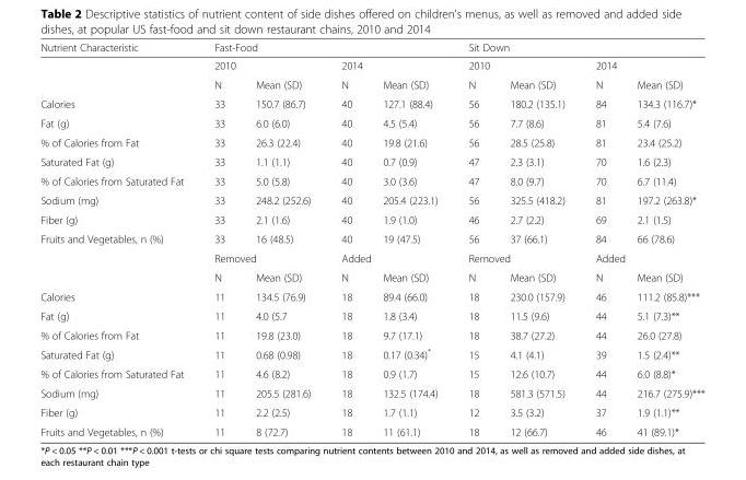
<table><thead><tr><td rowspan="3">Nutrient Characteristic</td><td colspan="4">Fast-Food</td><td colspan="4">Sit Down</td></tr><tr><td colspan="2">2010</td><td colspan="2">2014</td><td colspan="2">2010</td><td colspan="2">2014</td></tr><tr><td>N</td><td>Mean (SD)</td><td>N</td><td>Mean (SD)</td><td>N</td><td>Mean (SD)</td><td>N</td><td>Mean (SD)</td></tr></thead><tbody><tr><td>Calories</td><td>33</td><td>150.7 (86.7)</td><td>40</td><td>127.1 (88.4)</td><td>56</td><td>180.2 (135.1)</td><td>84</td><td>134.3 (116.7)*</td></tr><tr><td>Fat (g)</td><td>33</td><td>6.0 (6.0)</td><td>40</td><td>4.5 (5.4)</td><td>56</td><td>7.7 (8.6)</td><td>81</td><td>5.4 (7.6)</td></tr><tr><td>% of Calories from Fat</td><td>33</td><td>26.3 (22.4)</td><td>40</td><td>19.8 (21.6)</td><td>56</td><td>28.5 (25.8)</td><td>81</td><td>23.4 (25.2)</td></tr><tr><td>Saturated Fat (g)</td><td>33</td><td>1.1 (1.1)</td><td>40</td><td>0.7 (0.9)</td><td>47</td><td>2.3 (3.1)</td><td>70</td><td>1.6 (2.3)</td></tr><tr><td>% of Calories from Saturated Fat</td><td>33</td><td>5.0 (5.8)</td><td>40</td><td>3.0 (3.6)</td><td>47</td><td>8.0 (9.7)</td><td>70</td><td>6.7 (11.4)</td></tr><tr><td>Sodium (mg)</td><td>33</td><td>248.2 (252.6)</td><td>40</td><td>205.4 (223.1)</td><td>56</td><td>325.5 (418.2)</td><td>81</td><td>197.2 (263.8)*</td></tr><tr><td>Fiber (g)</td><td>33</td><td>2.1 (1.6)</td><td>40</td><td>1.9 (1.0)</td><td>46</td><td>2.7 (2.2)</td><td>69</td><td>2.1 (1.5)</td></tr><tr><td rowspan="3">Fruits and Vegetables, n (%)</td><td>33</td><td>16 (48.5)</td><td>40</td><td>19 (47.5)</td><td>56</td><td>37 (66.1)</td><td>84</td><td>66 (78.6)</td></tr><tr><td colspan="2">Removed</td><td colspan="2">Added</td><td colspan="2">Removed</td><td colspan="2">Added</td></tr><tr><td>N</td><td>Mean (SD)</td><td>N</td><td>Mean (SD)</td><td>N</td><td>Mean (SD)</td><td>N</td><td>Mean (SD)</td></tr><tr><td>Calories</td><td>11</td><td>134.5 (76.9)</td><td>18</td><td>89.4 (66.0)</td><td>18</td><td>230.0 (157.9)</td><td>46</td><td>111.2 (85.8)***</td></tr><tr><td>Fat (g)</td><td>11</td><td>4.0 (5.7</td><td>18</td><td>1.8 (3.4)</td><td>18</td><td>11.5 (9.6)</td><td>44</td><td>5.1 (7.3)**</td></tr><tr><td>% of Calories from Fat</td><td>11</td><td>19.8 (23.0)</td><td>18</td><td>9.7 (17.1)</td><td>18</td><td>38.7 (27.2)</td><td>44</td><td>26.0 (27.8)</td></tr><tr><td>Saturated Fat (g)</td><td>11</td><td>0.68 (0.98)</td><td>18</td><td>0.17 (0.34)*</td><td>15</td><td>4.1 (4.1)</td><td>39</td><td>1.5 (2.4)**</td></tr><tr><td>% of Calories from Saturated Fat</td><td>11</td><td>4.6 (8.2)</td><td>18</td><td>0.9 (1.7)</td><td>15</td><td>12.6 (10.7)</td><td>44</td><td>6.0 (8.8)*</td></tr><tr><td>Sodium (mg)</td><td>11</td><td>205.5 (281.6)</td><td>18</td><td>132.5 (174.4)</td><td>18</td><td>581.3 (571.5)</td><td>44</td><td>216.7 (275.9)***</td></tr><tr><td>Fiber (g)</td><td>11</td><td>2.2 (2.5)</td><td>18</td><td>1.7 (1.1)</td><td>12</td><td>3.5 (3.2)</td><td>37</td><td>1.9 (1.1)**</td></tr><tr><td>Fruits and Vegetables, n (%)</td><td>11</td><td>8 (72.7)</td><td>18</td><td>11 (61.1)</td><td>18</td><td>12 (66.7)</td><td>46</td><td>41 (89.1)*</td></tr></tbody></table>